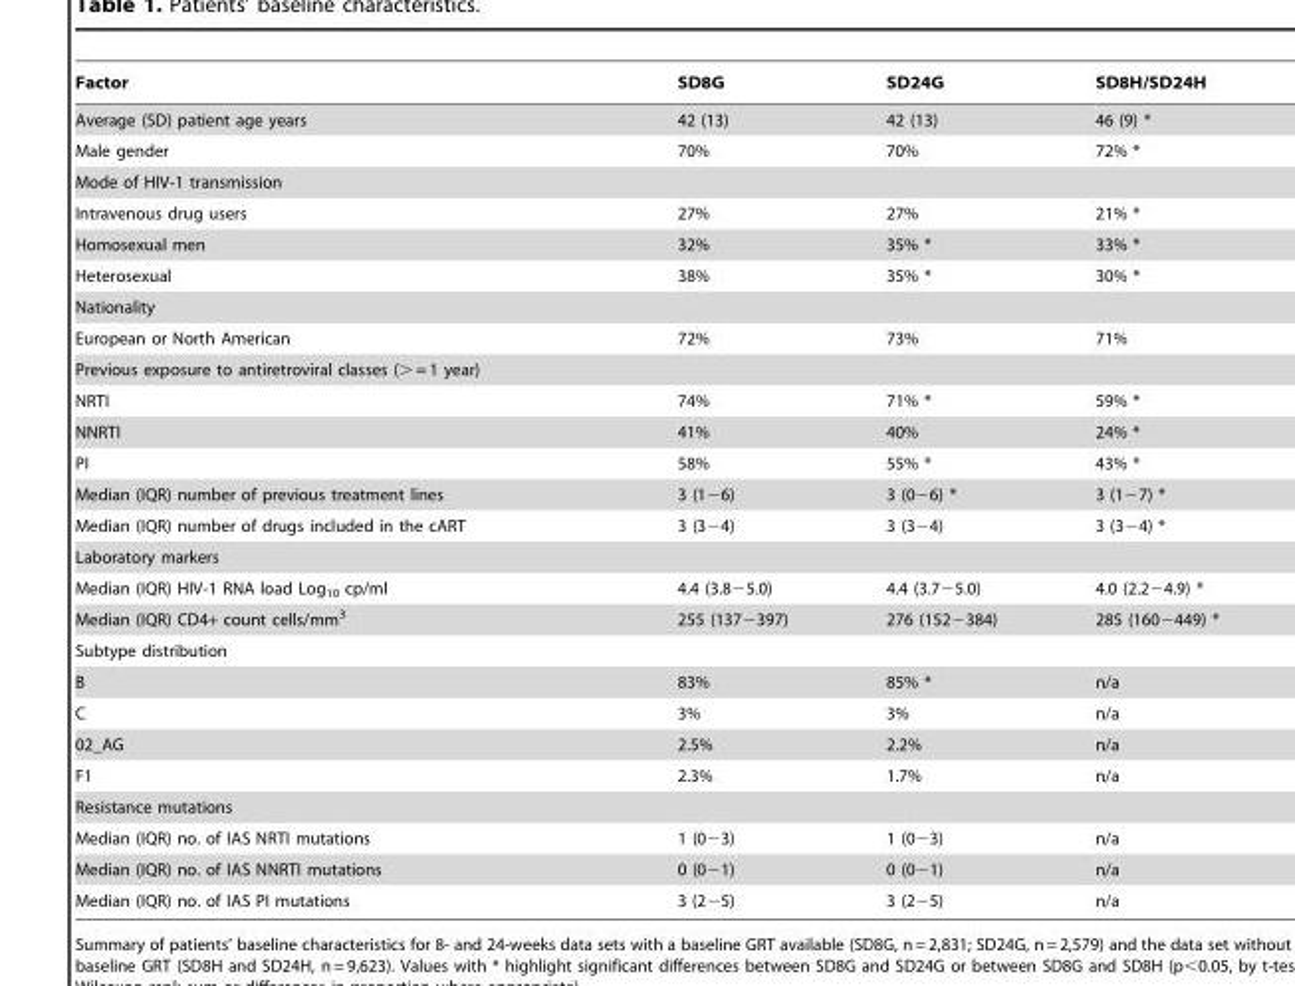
<table><thead><tr><td>Factor</td><td>SD8G</td><td>SD24G</td><td>SD8H/SD24H</td></tr></thead><tbody><tr><td>Average (SD) patient age years</td><td>42 (13)</td><td>42 (13)</td><td>46 (9) *</td></tr><tr><td>Male gender</td><td>70%</td><td>70%</td><td>72% *</td></tr><tr><td colspan="4">Mode of HIV-1 transmission</td></tr><tr><td>Intravenous drug users</td><td>27%</td><td>27%</td><td>21% *</td></tr><tr><td>Homosexual men</td><td>32%</td><td>35% *</td><td>33% *</td></tr><tr><td>Heterosexual</td><td>38%</td><td>35% *</td><td>30% *</td></tr><tr><td colspan="4">Nationality</td></tr><tr><td>European or North American</td><td>72%</td><td>73%</td><td>71%</td></tr><tr><td colspan="4">Previous exposure to antiretroviral classes (&gt; = 1 year)</td></tr><tr><td>NRTI</td><td>74%</td><td>71% *</td><td>59% *</td></tr><tr><td>NNRTI</td><td>41%</td><td>40%</td><td>24% *</td></tr><tr><td>PI</td><td>58%</td><td>55% *</td><td>43% *</td></tr><tr><td>Median (IQR) number of previous treatment lines</td><td>3 (1−6)</td><td>3 (0−6) *</td><td>3 (1−7) *</td></tr><tr><td>Median (IQR) number of drugs included in the cART</td><td>3 (3−4)</td><td>3 (3−4)</td><td>3 (3−4) *</td></tr><tr><td colspan="4">Laboratory markers</td></tr><tr><td>Median (IQR) HIV-1 RNA load Log<sub>10</sub> cp/ml</td><td>4.4 (3.8−5.0)</td><td>4.4 (3.7−5.0)</td><td>4.0 (2.2−4.9) *</td></tr><tr><td>Median (IQR) CD4+ count cells/mm<sup>3</sup></td><td>255 (137−397)</td><td>276 (152−384)</td><td>285 (160−449) *</td></tr><tr><td colspan="4">Subtype distribution</td></tr><tr><td>B</td><td>83%</td><td>85% *</td><td>n/a</td></tr><tr><td>C</td><td>3%</td><td>3%</td><td>n/a</td></tr><tr><td>02_AG</td><td>2.5%</td><td>2.2%</td><td>n/a</td></tr><tr><td>F1</td><td>2.3%</td><td>1.7%</td><td>n/a</td></tr><tr><td colspan="4">Resistance mutations</td></tr><tr><td>Median (IQR) no. of IAS NRTI mutations</td><td>1 (0−3)</td><td>1 (0−3)</td><td>n/a</td></tr><tr><td>Median (IQR) no. of IAS NNRTI mutations</td><td>0 (0−1)</td><td>0 (0−1)</td><td>n/a</td></tr><tr><td>Median (IQR) no. of IAS PI mutations</td><td>3 (2−5)</td><td>3 (2−5)</td><td>n/a</td></tr></tbody></table>